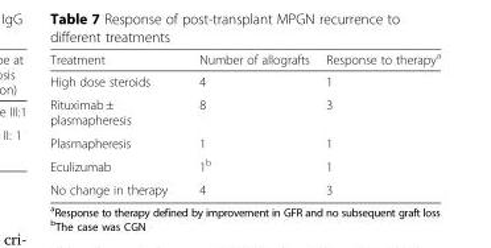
<table><thead><tr><td>Treatment</td><td>Number of allografts</td><td>Response to therapy<sup>a</sup></td></tr></thead><tbody><tr><td>High dose steroids</td><td>4</td><td>1</td></tr><tr><td>Rituximab ± plasmapheresis</td><td>8</td><td>3</td></tr><tr><td>Plasmapheresis</td><td>1</td><td>1</td></tr><tr><td>Eculizumab</td><td>1<sup>b</sup></td><td>1</td></tr><tr><td>No change in therapy</td><td>4</td><td>3</td></tr></tbody></table>